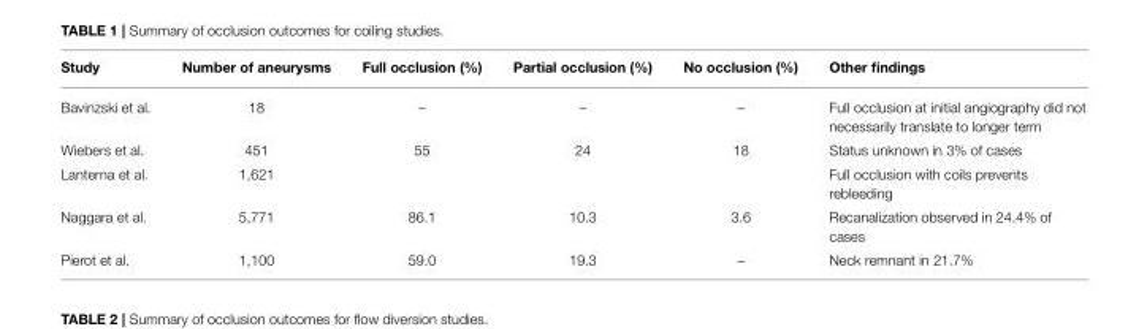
<table><thead><tr><td>Study</td><td>Number of aneurysms</td><td>Full occlusion (%)</td><td>Partial occlusion (%)</td><td>No occlusion (%)</td><td>Other findings</td></tr></thead><tbody><tr><td>Bavinzski et al.</td><td>18</td><td>–</td><td>–</td><td>–</td><td>Full occlusion at initial angiography did not necessarily translate to longer term</td></tr><tr><td>Wiebers et al.</td><td>451</td><td>55</td><td>24</td><td>18</td><td>Status unknown in 3% of cases</td></tr><tr><td>Lanterna et al.</td><td>1,621</td><td></td><td></td><td></td><td>Full occlusion with coils prevents rebleeding</td></tr><tr><td>Naggara et al.</td><td>5,771</td><td>86.1</td><td>10.3</td><td>3.6</td><td>Recanalization observed in 24.4% of cases</td></tr><tr><td>Pierot et al.</td><td>1,100</td><td>59.0</td><td>19.3</td><td>–</td><td>Neck remnant in 21.7%</td></tr></tbody></table>